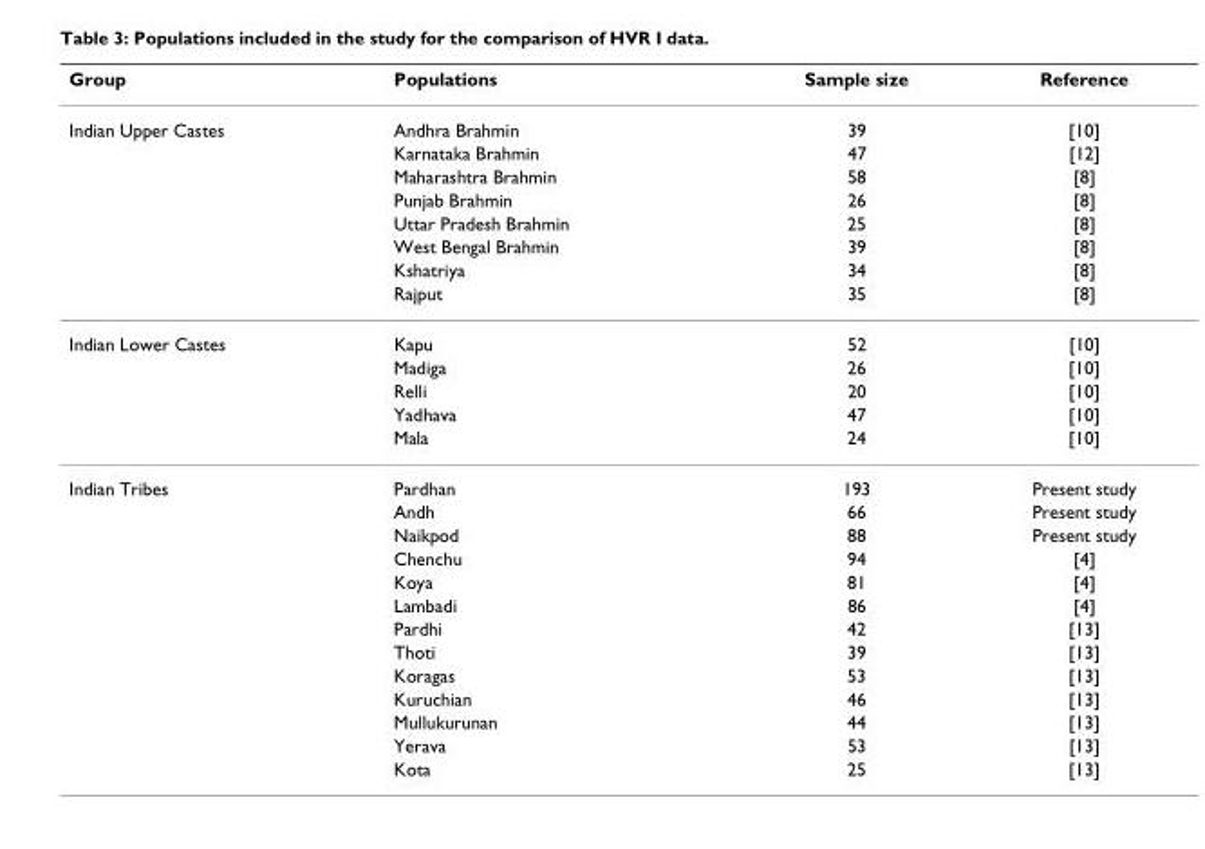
<table><thead><tr><td>Group</td><td>Populations</td><td>Sample size</td><td>Reference</td></tr></thead><tbody><tr><td rowspan="8">Indian Upper Castes</td><td>Andhra Brahmin</td><td>39</td><td>[10]</td></tr><tr><td>Karnataka Brahmin</td><td>47</td><td>[12]</td></tr><tr><td>Maharashtra Brahmin</td><td>58</td><td>[8]</td></tr><tr><td>Punjab Brahmin</td><td>26</td><td>[8]</td></tr><tr><td>Uttar Pradesh Brahmin</td><td>25</td><td>[8]</td></tr><tr><td>West Bengal Brahmin</td><td>39</td><td>[8]</td></tr><tr><td>Kshatriya</td><td>34</td><td>[8]</td></tr><tr><td>Rajput</td><td>35</td><td>[8]</td></tr><tr><td rowspan="5">Indian Lower Castes</td><td>Kapu</td><td>52</td><td>[10]</td></tr><tr><td>Madiga</td><td>26</td><td>[10]</td></tr><tr><td>Relli</td><td>20</td><td>[10]</td></tr><tr><td>Yadhava</td><td>47</td><td>[10]</td></tr><tr><td>Mala</td><td>24</td><td>[10]</td></tr><tr><td rowspan="13">Indian Tribes</td><td>Pardhan</td><td>193</td><td>Present study</td></tr><tr><td>Andh</td><td>66</td><td>Present study</td></tr><tr><td>Naikpod</td><td>88</td><td>Present study</td></tr><tr><td>Chenchu</td><td>94</td><td>[4]</td></tr><tr><td>Koya</td><td>81</td><td>[4]</td></tr><tr><td>Lambadi</td><td>86</td><td>[4]</td></tr><tr><td>Pardhi</td><td>42</td><td>[13]</td></tr><tr><td>Thoti</td><td>39</td><td>[13]</td></tr><tr><td>Koragas</td><td>53</td><td>[13]</td></tr><tr><td>Kuruchian</td><td>46</td><td>[13]</td></tr><tr><td>Mullukurunan</td><td>44</td><td>[13]</td></tr><tr><td>Yerava</td><td>53</td><td>[13]</td></tr><tr><td>Kota</td><td>25</td><td>[13]</td></tr></tbody></table>